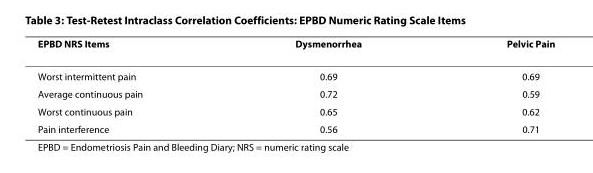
<table><thead><tr><td>EPBD NRS Items</td><td>Dysmenorrhea</td><td>Pelvic Pain</td></tr></thead><tbody><tr><td>Worst intermittent pain</td><td>0.69</td><td>0.69</td></tr><tr><td>Average continuous pain</td><td>0.72</td><td>0.59</td></tr><tr><td>Worst continuous pain</td><td>0.65</td><td>0.62</td></tr><tr><td>Pain interference</td><td>0.56</td><td>0.71</td></tr></tbody></table>